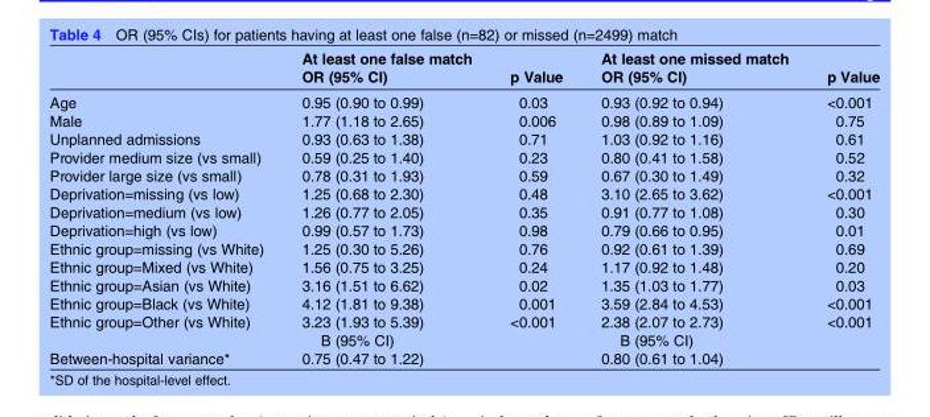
<table><thead><tr><td rowspan="2"></td><td rowspan="2">At least one false match OR (95% CI)</td><td rowspan="2">p Value</td><td rowspan="2">At least one missed match OR (95% CI)</td><td rowspan="2">p Value</td></tr><tr></tr></thead><tbody><tr><td>Age</td><td>0.95 (0.90 to 0.99)</td><td>0.03</td><td>0.93 (0.92 to 0.94)</td><td>&lt;0.001</td></tr><tr><td>Male</td><td>1.77 (1.18 to 2.65)</td><td>0.006</td><td>0.98 (0.89 to 1.09)</td><td>0.75</td></tr><tr><td>Unplanned admissions</td><td>0.93 (0.63 to 1.38)</td><td>0.71</td><td>1.03 (0.92 to 1.16)</td><td>0.61</td></tr><tr><td>Provider medium size (vs small)</td><td>0.59 (0.25 to 1.40)</td><td>0.23</td><td>0.80 (0.41 to 1.58)</td><td>0.52</td></tr><tr><td>Provider large size (vs small)</td><td>0.78 (0.31 to 1.93)</td><td>0.59</td><td>0.67 (0.30 to 1.49)</td><td>0.32</td></tr><tr><td>Deprivation=missing (vs low)</td><td>1.25 (0.68 to 2.30)</td><td>0.48</td><td>3.10 (2.65 to 3.62)</td><td>&lt;0.001</td></tr><tr><td>Deprivation=medium (vs low)</td><td>1.26 (0.77 to 2.05)</td><td>0.35</td><td>0.91 (0.77 to 1.08)</td><td>0.30</td></tr><tr><td>Deprivation=high (vs low)</td><td>0.99 (0.57 to 1.73)</td><td>0.98</td><td>0.79 (0.66 to 0.95)</td><td>0.01</td></tr><tr><td>Ethnic group=missing (vs White)</td><td>1.25 (0.30 to 5.26)</td><td>0.76</td><td>0.92 (0.61 to 1.39)</td><td>0.69</td></tr><tr><td>Ethnic group=Mixed (vs White)</td><td>1.56 (0.75 to 3.25)</td><td>0.24</td><td>1.17 (0.92 to 1.48)</td><td>0.20</td></tr><tr><td>Ethnic group=Asian (vs White)</td><td>3.16 (1.51 to 6.62)</td><td>0.02</td><td>1.35 (1.03 to 1.77)</td><td>0.03</td></tr><tr><td>Ethnic group=Black (vs White)</td><td>4.12 (1.81 to 9.38)</td><td>0.001</td><td>3.59 (2.84 to 4.53)</td><td>&lt;0.001</td></tr><tr><td rowspan="2">Ethnic group=Other (vs White)</td><td>3.23 (1.93 to 5.39)</td><td>&lt;0.001</td><td>2.38 (2.07 to 2.73)</td><td>&lt;0.001</td></tr><tr><td>B (95% CI)</td><td></td><td>B (95% CI)</td><td></td></tr><tr><td>Between-hospital variance*</td><td>0.75 (0.47 to 1.22)</td><td></td><td>0.80 (0.61 to 1.04)</td><td></td></tr></tbody></table>